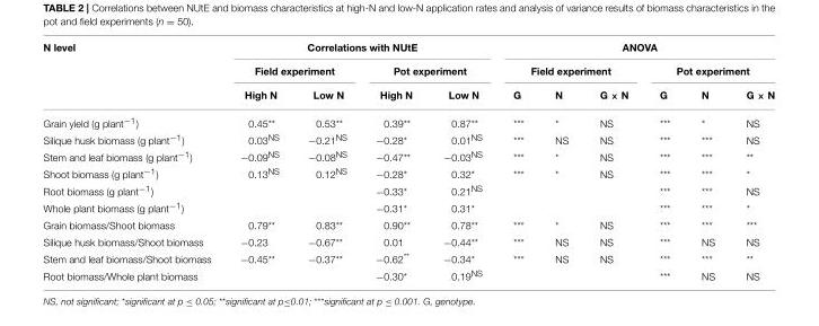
<table><thead><tr><td rowspan="3">N level</td><td colspan="4">Correlations with NUtE</td><td colspan="6">ANOVA</td></tr><tr><td colspan="2">Field experiment</td><td colspan="2">Pot experiment</td><td colspan="3">Field experiment</td><td colspan="3">Pot experiment</td></tr><tr><td>High N</td><td>Low N</td><td>High N</td><td>Low N</td><td>G</td><td>N</td><td>G × N</td><td>G</td><td>N</td><td>G × N</td></tr></thead><tbody><tr><td>Grain yield (g plant<sup>−1</sup>)</td><td>0.45**</td><td>0.53**</td><td>0.39**</td><td>0.87**</td><td>***</td><td>*</td><td>NS</td><td>***</td><td>*</td><td>NS</td></tr><tr><td>Silique husk biomass (g plant<sup>−1</sup>)</td><td>0.03<sup>NS</sup></td><td>−0.21<sup>NS</sup></td><td>−0.28*</td><td>0.01<sup>NS</sup></td><td>***</td><td>NS</td><td>NS</td><td>***</td><td>***</td><td>NS</td></tr><tr><td>Stem and leaf biomass (g plant<sup>−1</sup>)</td><td>−0.09<sup>NS</sup></td><td>−0.08<sup>NS</sup></td><td>−0.47**</td><td>−0.03<sup>NS</sup></td><td>***</td><td>*</td><td>NS</td><td>***</td><td>***</td><td>**</td></tr><tr><td>Shoot biomass (g plant<sup>−1</sup>)</td><td>0.13<sup>NS</sup></td><td>0.12<sup>NS</sup></td><td>−0.28*</td><td>0.32*</td><td>***</td><td>*</td><td>NS</td><td>***</td><td>***</td><td>*</td></tr><tr><td>Root biomass (g plant<sup>−1</sup>)</td><td></td><td></td><td>−0.33*</td><td>0.21<sup>NS</sup></td><td></td><td></td><td></td><td>***</td><td>***</td><td>NS</td></tr><tr><td>Whole plant biomass (g plant<sup>−1</sup>)</td><td></td><td></td><td>−0.31*</td><td>0.31*</td><td></td><td></td><td></td><td>***</td><td>***</td><td>*</td></tr><tr><td>Grain biomass/Shoot biomass</td><td>0.79**</td><td>0.83**</td><td>0.90**</td><td>0.78**</td><td>***</td><td>*</td><td>NS</td><td>***</td><td>***</td><td>***</td></tr><tr><td>Silique husk biomass/Shoot biomass</td><td>−0.23</td><td>−0.67**</td><td>0.01</td><td>−0.44**</td><td>***</td><td>NS</td><td>NS</td><td>***</td><td>NS</td><td>NS</td></tr><tr><td>Stem and leaf biomass/Shoot biomass</td><td>−0.45**</td><td>−0.37**</td><td>−0.62**</td><td>−0.34*</td><td>***</td><td>NS</td><td>NS</td><td>***</td><td>***</td><td>**</td></tr><tr><td>Root biomass/Whole plant biomass</td><td></td><td></td><td>−0.30*</td><td>0.19<sup>NS</sup></td><td></td><td></td><td></td><td>***</td><td>NS</td><td>NS</td></tr></tbody></table>